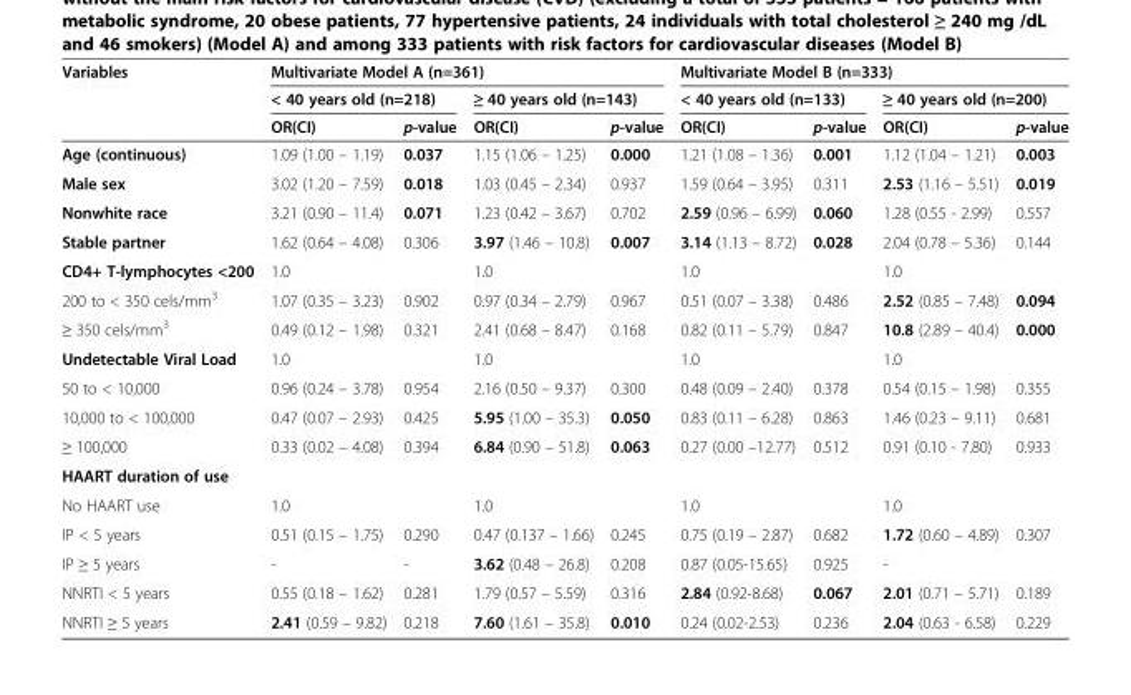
<table><thead><tr><td rowspan="3">Variables</td><td colspan="4">Multivariate Model A (n=361)</td><td colspan="4">Multivariate Model B (n=333)</td></tr><tr><td colspan="2">&lt; 40 years old (n=218)</td><td colspan="2">≥ 40 years old (n=143)</td><td colspan="2">&lt; 40 years old (n=133)</td><td colspan="2">≥ 40 years old (n=200)</td></tr><tr><td>OR(CI)</td><td>p-value</td><td>OR(CI)</td><td>p-value</td><td>OR(CI)</td><td>p-value</td><td>OR(CI)</td><td>p-value</td></tr></thead><tbody><tr><td>Age (continuous)</td><td>1.09 (1.00 – 1.19)</td><td>0.037</td><td>1.15 (1.06 – 1.25)</td><td>0.000</td><td>1.21 (1.08 – 1.36)</td><td>0.001</td><td>1.12 (1.04 – 1.21)</td><td>0.003</td></tr><tr><td>Male sex</td><td>3.02 (1.20 – 7.59)</td><td>0.018</td><td>1.03 (0.45 – 2.34)</td><td>0.937</td><td>1.59 (0.64 – 3.95)</td><td>0.311</td><td>2.53 (1.16 – 5.51)</td><td>0.019</td></tr><tr><td>Nonwhite race</td><td>3.21 (0.90 – 11.4)</td><td>0.071</td><td>1.23 (0.42 – 3.67)</td><td>0.702</td><td>2.59 (0.96 – 6.99)</td><td>0.060</td><td>1.28 (0.55 - 2.99)</td><td>0.557</td></tr><tr><td>Stable partner</td><td>1.62 (0.64 – 4.08)</td><td>0.306</td><td>3.97 (1.46 – 10.8)</td><td>0.007</td><td>3.14 (1.13 – 8.72)</td><td>0.028</td><td>2.04 (0.78 – 5.36)</td><td>0.144</td></tr><tr><td>CD4+ T-lymphocytes &lt;200</td><td>1.0</td><td></td><td>1.0</td><td></td><td>1.0</td><td></td><td>1.0</td><td></td></tr><tr><td>200 to &lt; 350 cels/mm<sup>3</sup></td><td>1.07 (0.35 – 3.23)</td><td>0.902</td><td>0.97 (0.34 – 2.79)</td><td>0.967</td><td>0.51 (0.07 – 3.38)</td><td>0.486</td><td>2.52 (0.85 – 7.48)</td><td>0.094</td></tr><tr><td>≥ 350 cels/mm<sup>3</sup></td><td>0.49 (0.12 – 1.98)</td><td>0.321</td><td>2.41 (0.68 – 8.47)</td><td>0.168</td><td>0.82 (0.11 – 5.79)</td><td>0.847</td><td>10.8 (2.89 – 40.4)</td><td>0.000</td></tr><tr><td>Undetectable Viral Load</td><td>1.0</td><td></td><td>1.0</td><td></td><td>1.0</td><td></td><td>1.0</td><td></td></tr><tr><td>50 to &lt; 10,000</td><td>0.96 (0.24 – 3.78)</td><td>0.954</td><td>2.16 (0.50 – 9.37)</td><td>0.300</td><td>0.48 (0.09 – 2.40)</td><td>0.378</td><td>0.54 (0.15 – 1.98)</td><td>0.355</td></tr><tr><td>10,000 to &lt; 100,000</td><td>0.47 (0.07 – 2.93)</td><td>0.425</td><td>5.95 (1.00 – 35.3)</td><td>0.050</td><td>0.83 (0.11 – 6.28)</td><td>0.863</td><td>1.46 (0.23 – 9.11)</td><td>0.681</td></tr><tr><td>≥ 100,000</td><td>0.33 (0.02 – 4.08)</td><td>0.394</td><td>6.84 (0.90 – 51.8)</td><td>0.063</td><td>0.27 (0.00 –12.77)</td><td>0.512</td><td>0.91 (0.10 - 7.80)</td><td>0.933</td></tr><tr><td colspan="9">HAART duration of use</td></tr><tr><td>No HAART use</td><td>1.0</td><td></td><td>1.0</td><td></td><td>1.0</td><td></td><td>1.0</td><td></td></tr><tr><td>IP &lt; 5 years</td><td>0.51 (0.15 – 1.75)</td><td>0.290</td><td>0.47 (0.137 – 1.66)</td><td>0.245</td><td>0.75 (0.19 – 2.87)</td><td>0.682</td><td>1.72 (0.60 – 4.89)</td><td>0.307</td></tr><tr><td>IP ≥ 5 years</td><td>-</td><td>-</td><td>3.62 (0.48 – 26.8)</td><td>0.208</td><td>0.87 (0.05-15.65)</td><td>0.925</td><td>-</td><td></td></tr><tr><td>NNRTI &lt; 5 years</td><td>0.55 (0.18 – 1.62)</td><td>0.281</td><td>1.79 (0.57 – 5.59)</td><td>0.316</td><td>2.84 (0.92-8.68)</td><td>0.067</td><td>2.01 (0.71 – 5.71)</td><td>0.189</td></tr><tr><td>NNRTI ≥ 5 years</td><td>2.41 (0.59 – 9.82)</td><td>0.218</td><td>7.60 (1.61 – 35.8)</td><td>0.010</td><td>0.24 (0.02-2.53)</td><td>0.236</td><td>2.04 (0.63 - 6.58)</td><td>0.229</td></tr></tbody></table>